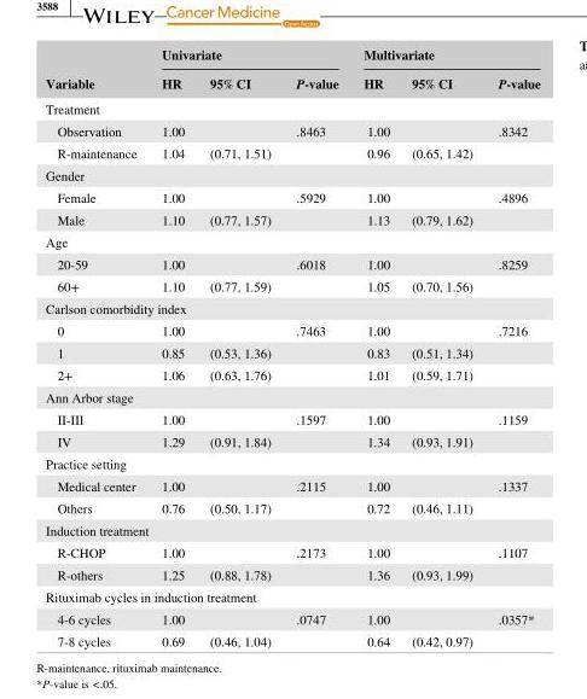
<table><thead><tr><td rowspan="2">Variable</td><td colspan="3">Univariate</td><td colspan="3">Multivariate</td></tr><tr><td>HR</td><td>95% CI</td><td>P- value</td><td>HR</td><td>95% CI</td><td>P- value</td></tr></thead><tbody><tr><td colspan="7">Treatment</td></tr><tr><td>Observation</td><td>1.00</td><td></td><td>.8463</td><td>1.00</td><td></td><td>.8342</td></tr><tr><td>R- maintenance</td><td>1.04</td><td>(0.71, 1.51)</td><td></td><td>0.96</td><td>(0.65, 1.42)</td><td></td></tr><tr><td colspan="7">Gender</td></tr><tr><td>Female</td><td>1.00</td><td></td><td>.5929</td><td>1.00</td><td></td><td>.4896</td></tr><tr><td>Male</td><td>1.10</td><td>(0.77, 1.57)</td><td></td><td>1.13</td><td>(0.79, 1.62)</td><td></td></tr><tr><td colspan="7">Age</td></tr><tr><td>20- 59</td><td>1.00</td><td></td><td>.6018</td><td>1.00</td><td></td><td>.8259</td></tr><tr><td>60+</td><td>1.10</td><td>(0.77, 1.59)</td><td></td><td>1.05</td><td>(0.70, 1.56)</td><td></td></tr><tr><td colspan="7">Carlson comorbidity index</td></tr><tr><td>0</td><td>1.00</td><td></td><td>.7463</td><td>1.00</td><td></td><td>.7216</td></tr><tr><td>1</td><td>0.85</td><td>(0.53, 1.36)</td><td></td><td>0.83</td><td>(0.51, 1.34)</td><td></td></tr><tr><td>2+</td><td>1.06</td><td>(0.63, 1.76)</td><td></td><td>1.01</td><td>(0.59, 1.71)</td><td></td></tr><tr><td colspan="7">Ann Arbor stage</td></tr><tr><td>II- III</td><td>1.00</td><td></td><td>.1597</td><td>1.00</td><td></td><td>.1159</td></tr><tr><td>IV</td><td>1.29</td><td>(0.91, 1.84)</td><td></td><td>1.34</td><td>(0.93, 1.91)</td><td></td></tr><tr><td colspan="7">Practice setting</td></tr><tr><td>Medical center</td><td>1.00</td><td></td><td>.2115</td><td>1.00</td><td></td><td>.1337</td></tr><tr><td>Others</td><td>0.76</td><td>(0.50, 1.17)</td><td></td><td>0.72</td><td>(0.46, 1.11)</td><td></td></tr><tr><td colspan="7">Induction treatment</td></tr><tr><td>R- CHOP</td><td>1.00</td><td></td><td>.2173</td><td>1.00</td><td></td><td>.1107</td></tr><tr><td>R- others</td><td>1.25</td><td>(0.88, 1.78)</td><td></td><td>1.36</td><td>(0.93, 1.99)</td><td></td></tr><tr><td colspan="7">Rituximab cycles in induction treatment</td></tr><tr><td>4- 6 cycles</td><td>1.00</td><td></td><td>.0747</td><td>1.00</td><td></td><td>.0357*</td></tr><tr><td>7- 8 cycles</td><td>0.69</td><td>(0.46, 1.04)</td><td></td><td>0.64</td><td>(0.42, 0.97)</td><td></td></tr></tbody></table>